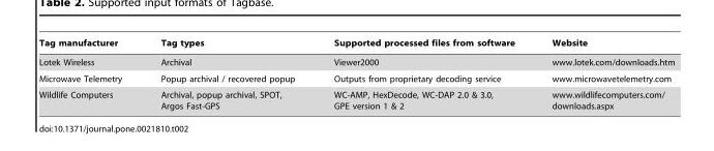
<table><thead><tr><td>Tag manufacturer</td><td>Tag types</td><td>Supported processed files from software</td><td>Website</td></tr></thead><tbody><tr><td>Lotek Wireless</td><td>Archival</td><td>Viewer2000</td><td>www.lotek.com/downloads.htm</td></tr><tr><td>Microwave Telemetry</td><td>Popup archival / recovered popup</td><td>Outputs from proprietary decoding service</td><td>www.microwavetelemetry.com</td></tr><tr><td>Wildlife Computers</td><td>Archival, popup archival, SPOT, Argos Fast-GPS</td><td>WC-AMP, HexDecode, WC-DAP 2.0 &amp; 3.0, GPE version 1 &amp; 2</td><td>www.wildlifecomputers.com/ downloads.aspx</td></tr></tbody></table>